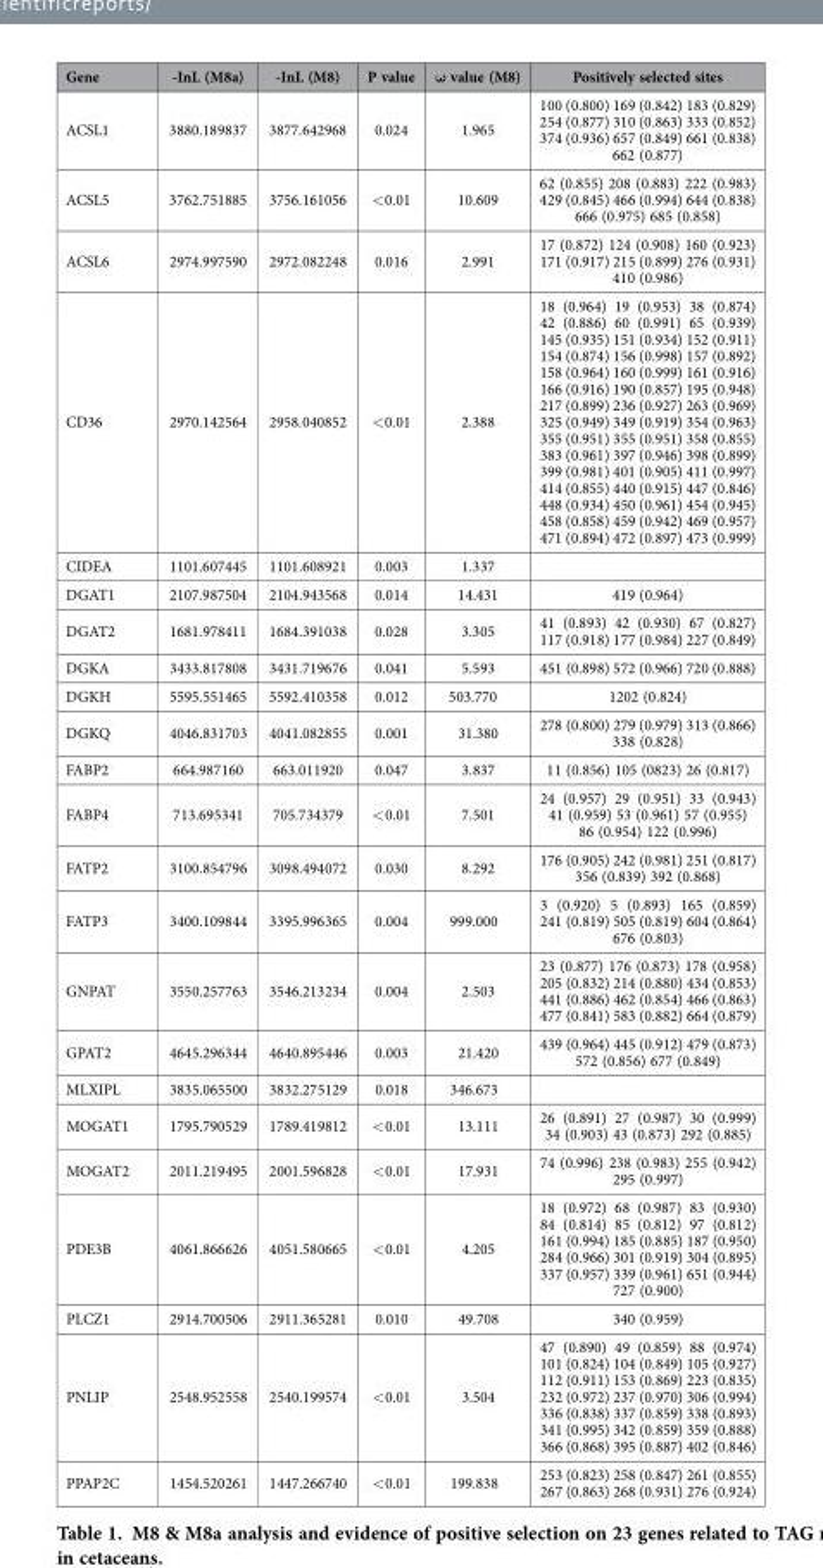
<table><thead><tr><td>Gene</td><td>-InL (M8a)</td><td>-InL (M8)</td><td>P value</td><td>ω value (M8)</td><td>Positively selected sites</td></tr></thead><tbody><tr><td>ACSL1</td><td>3880.189837</td><td>3877.642968</td><td>0.024</td><td>1.965</td><td>100 (0.800) 169 (0.842) 183 (0.829) 254 (0.877) 310 (0.863) 333 (0.852) 374 (0.936) 657 (0.849) 661 (0.838) 662 (0.877)</td></tr><tr><td>ACSL5</td><td>3762.751885</td><td>3756.161056</td><td>&lt; 0.01</td><td>10.609</td><td>62 (0.855) 208 (0.883) 222 (0.983) 429 (0.845) 466 (0.994) 644 (0.838) 666 (0.975) 685 (0.858)</td></tr><tr><td>ACSL6</td><td>2974.997590</td><td>2972.082248</td><td>0.016</td><td>2.991</td><td>17 (0.872) 124 (0.908) 160 (0.923) 171 (0.917) 215 (0.899) 276 (0.931) 410 (0.986)</td></tr><tr><td>CD36</td><td>2970.142564</td><td>2958.040852</td><td>&lt; 0.01</td><td>2.388</td><td>18 (0.964) 19 (0.953) 38 (0.874) 42 (0.886) 60 (0.991) 65 (0.939) 145 (0.935) 151 (0.934) 152 (0.911) 154 (0.874) 156 (0.998) 157 (0.892) 158 (0.964) 160 (0.999) 161 (0.916) 166 (0.916) 190 (0.857) 195 (0.948) 217 (0.899) 236 (0.927) 263 (0.969) 325 (0.949) 349 (0.919) 354 (0.963) 355 (0.951) 355 (0.951) 358 (0.855) 383 (0.961) 397 (0.946) 398 (0.899) 399 (0.981) 401 (0.905) 411 (0.997) 414 (0.855) 440 (0.915) 447 (0.846) 448 (0.934) 450 (0.961) 454 (0.945) 458 (0.858) 459 (0.942) 469 (0.957) 471 (0.894) 472 (0.897) 473 (0.999)</td></tr><tr><td>CIDEA</td><td>1101.607445</td><td>1101.608921</td><td>0.003</td><td>1.337</td><td></td></tr><tr><td>DGAT1</td><td>2107.987504</td><td>2104.943568</td><td>0.014</td><td>14.431</td><td>419 (0.964)</td></tr><tr><td>DGAT2</td><td>1681.978411</td><td>1684.391038</td><td>0.028</td><td>3.305</td><td>41 (0.893) 42 (0.930) 67 (0.827) 117 (0.918) 177 (0.984) 227 (0.849)</td></tr><tr><td>DGKA</td><td>3433.817808</td><td>3431.719676</td><td>0.041</td><td>5.593</td><td>451 (0.898) 572 (0.966) 720 (0.888)</td></tr><tr><td>DGKH</td><td>5595.551465</td><td>5592.410358</td><td>0.012</td><td>503.770</td><td>1202 (0.824)</td></tr><tr><td>DGKQ</td><td>4046.831703</td><td>4041.082855</td><td>0.001</td><td>31.380</td><td>278 (0.800) 279 (0.979) 313 (0.866) 338 (0.828)</td></tr><tr><td>FABP2</td><td>664.987160</td><td>663.011920</td><td>0.047</td><td>3.837</td><td>11 (0.856) 105 (0823) 26 (0.817)</td></tr><tr><td>FABP4</td><td>713.695341</td><td>705.734379</td><td>&lt; 0.01</td><td>7.501</td><td>24 (0.957) 29 (0.951) 33 (0.943) 41 (0.959) 53 (0.961) 57 (0.955) 86 (0.954) 122 (0.996)</td></tr><tr><td>FATP2</td><td>3100.854796</td><td>3098.494072</td><td>0.030</td><td>8.292</td><td>176 (0.905) 242 (0.981) 251 (0.817) 356 (0.839) 392 (0.868)</td></tr><tr><td>FATP3</td><td>3400.109844</td><td>3395.996365</td><td>0.004</td><td>999.000</td><td>3 (0.920) 5 (0.893) 165 (0.859) 241 (0.819) 505 (0.819) 604 (0.864) 676 (0.803)</td></tr><tr><td>GNPAT</td><td>3550.257763</td><td>3546.213234</td><td>0.004</td><td>2.503</td><td>23 (0.877) 176 (0.873) 178 (0.958) 205 (0.832) 214 (0.880) 434 (0.853) 441 (0.886) 462 (0.854) 466 (0.863) 477 (0.841) 583 (0.882) 664 (0.879)</td></tr><tr><td>GPAT2</td><td>4645.296344</td><td>4640.895446</td><td>0.003</td><td>21.420</td><td>439 (0.964) 445 (0.912) 479 (0.873) 572 (0.856) 677 (0.849)</td></tr><tr><td>MLXIPL</td><td>3835.065500</td><td>3832.275129</td><td>0.018</td><td>346.673</td><td></td></tr><tr><td>MOGAT1</td><td>1795.790529</td><td>1789.419812</td><td>&lt; 0.01</td><td>13.111</td><td>26 (0.891) 27 (0.987) 30 (0.999) 34 (0.903) 43 (0.873) 292 (0.885)</td></tr><tr><td>MOGAT2</td><td>2011.219495</td><td>2001.596828</td><td>&lt; 0.01</td><td>17.931</td><td>74 (0.996) 238 (0.983) 255 (0.942) 295 (0.997)</td></tr><tr><td>PDE3B</td><td>4061.866626</td><td>4051.580665</td><td>&lt; 0.01</td><td>4.205</td><td>18 (0.972) 68 (0.987) 83 (0.930) 84 (0.814) 85 (0.812) 97 (0.812) 161 (0.994) 185 (0.885) 187 (0.950) 284 (0.966) 301 (0.919) 304 (0.895) 337 (0.957) 339 (0.961) 651 (0.944) 727 (0.900)</td></tr><tr><td>PLCZ1</td><td>2914.700506</td><td>2911.365281</td><td>0.010</td><td>49.708</td><td>340 (0.959)</td></tr><tr><td>PNLIP</td><td>2548.952558</td><td>2540.199574</td><td>&lt; 0.01</td><td>3.504</td><td>47 (0.890) 49 (0.859) 88 (0.974) 101 (0.824) 104 (0.849) 105 (0.927) 112 (0.911) 153 (0.869) 223 (0.835) 232 (0.972) 237 (0.970) 306 (0.994) 336 (0.838) 337 (0.859) 338 (0.893) 341 (0.995) 342 (0.859) 359 (0.888) 366 (0.868) 395 (0.887) 402 (0.846)</td></tr><tr><td>PPAP2C</td><td>1454.520261</td><td>1447.266740</td><td>&lt; 0.01</td><td>199.838</td><td>253 (0.823) 258 (0.847) 261 (0.855) 267 (0.863) 268 (0.931) 276 (0.924)</td></tr></tbody></table>